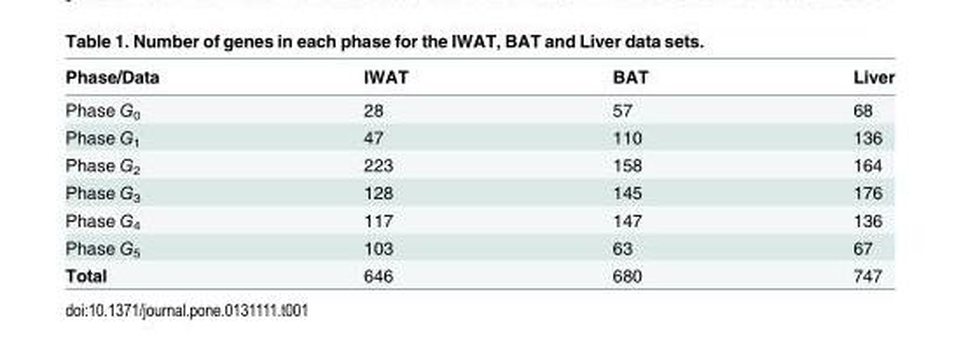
<table><thead><tr><td>Phase/Data</td><td>IWAT</td><td>BAT</td><td>Liver</td></tr></thead><tbody><tr><td>Phase G<sub>0</sub></td><td>28</td><td>57</td><td>68</td></tr><tr><td>Phase G<sub>1</sub></td><td>47</td><td>110</td><td>136</td></tr><tr><td>Phase G<sub>2</sub></td><td>223</td><td>158</td><td>164</td></tr><tr><td>Phase G<sub>3</sub></td><td>128</td><td>145</td><td>176</td></tr><tr><td>Phase G<sub>4</sub></td><td>117</td><td>147</td><td>136</td></tr><tr><td>Phase G<sub>5</sub></td><td>103</td><td>63</td><td>67</td></tr><tr><td>Total</td><td>646</td><td>680</td><td>747</td></tr></tbody></table>